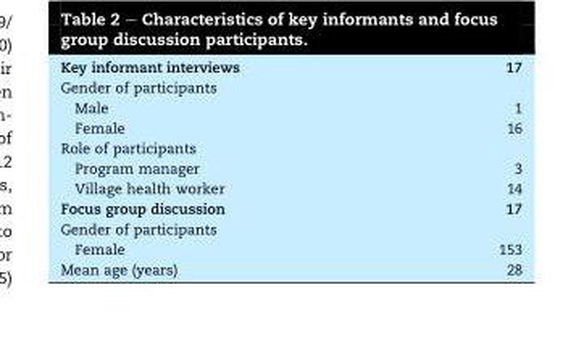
<table><tbody><tr><td>Key informant interviews</td><td>17</td></tr><tr><td colspan="2">Gender of participants</td></tr><tr><td>Male</td><td>1</td></tr><tr><td>Female</td><td>16</td></tr><tr><td colspan="2">Role of participants</td></tr><tr><td>Program manager</td><td>3</td></tr><tr><td>Village health worker</td><td>14</td></tr><tr><td>Focus group discussion</td><td>17</td></tr><tr><td colspan="2">Gender of participants</td></tr><tr><td>Female</td><td>153</td></tr><tr><td>Mean age (years)</td><td>28</td></tr></tbody></table>